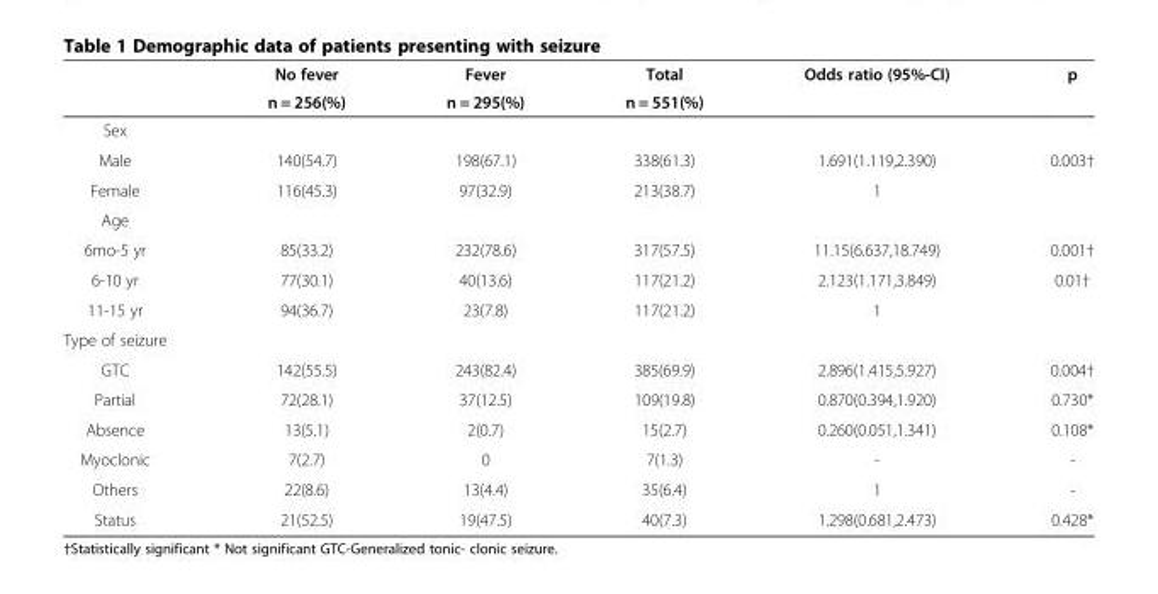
<table><thead><tr><td rowspan="2"></td><td rowspan="2">No fever n = 256(%)</td><td rowspan="2">Fever n = 295(%)</td><td rowspan="2">Total n = 551(%)</td><td rowspan="2">Odds ratio (95%-CI)</td><td rowspan="2">p</td></tr><tr></tr></thead><tbody><tr><td colspan="6">Sex</td></tr><tr><td>Male</td><td>140(54.7)</td><td>198(67.1)</td><td>338(61.3)</td><td>1.691(1.119,2.390)</td><td>0.003†</td></tr><tr><td>Female</td><td>116(45.3)</td><td>97(32.9)</td><td>213(38.7)</td><td>1</td><td></td></tr><tr><td colspan="6">Age</td></tr><tr><td>6mo-5 yr</td><td>85(33.2)</td><td>232(78.6)</td><td>317(57.5)</td><td>11.15(6.637,18.749)</td><td>0.001†</td></tr><tr><td>6-10 yr</td><td>77(30.1)</td><td>40(13.6)</td><td>117(21.2)</td><td>2.123(1.171,3.849)</td><td>0.01†</td></tr><tr><td>11-15 yr</td><td>94(36.7)</td><td>23(7.8)</td><td>117(21.2)</td><td>1</td><td></td></tr><tr><td colspan="6">Type of seizure</td></tr><tr><td>GTC</td><td>142(55.5)</td><td>243(82.4)</td><td>385(69.9)</td><td>2.896(1.415,5.927)</td><td>0.004†</td></tr><tr><td>Partial</td><td>72(28.1)</td><td>37(12.5)</td><td>109(19.8)</td><td>0.870(0.394,1.920)</td><td>0.730*</td></tr><tr><td>Absence</td><td>13(5.1)</td><td>2(0.7)</td><td>15(2.7)</td><td>0.260(0.051,1.341)</td><td>0.108*</td></tr><tr><td>Myoclonic</td><td>7(2.7)</td><td>0</td><td>7(1.3)</td><td>-</td><td>-</td></tr><tr><td>Others</td><td>22(8.6)</td><td>13(4.4)</td><td>35(6.4)</td><td>1</td><td>-</td></tr><tr><td>Status</td><td>21(52.5)</td><td>19(47.5)</td><td>40(7.3)</td><td>1.298(0.681,2.473)</td><td>0.428*</td></tr></tbody></table>